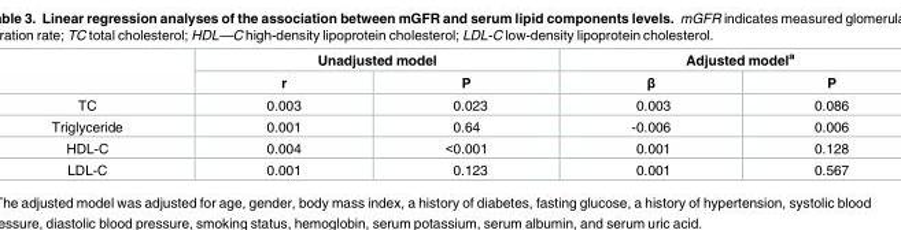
<table><thead><tr><td rowspan="2"></td><td colspan="2">Unadjusted model</td><td colspan="2">Adjusted model<sup>a</sup></td></tr><tr><td>r</td><td>P</td><td>β</td><td>P</td></tr></thead><tbody><tr><td>TC</td><td>0.003</td><td>0.023</td><td>0.003</td><td>0.086</td></tr><tr><td>Triglyceride</td><td>0.001</td><td>0.64</td><td>-0.006</td><td>0.006</td></tr><tr><td>HDL-C</td><td>0.004</td><td>&lt;0.001</td><td>0.001</td><td>0.128</td></tr><tr><td>LDL-C</td><td>0.001</td><td>0.123</td><td>0.001</td><td>0.567</td></tr></tbody></table>